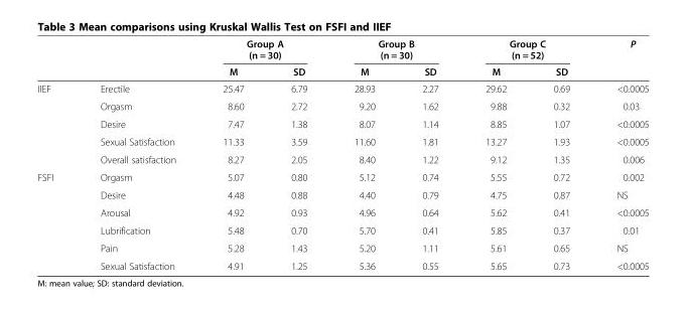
<table><thead><tr><td rowspan="2"></td><td rowspan="2"></td><td rowspan="2">Group A (n = 30) M</td><td rowspan="2">SD</td><td rowspan="2">Group B (n = 30) M</td><td rowspan="2">SD</td><td rowspan="2">Group C (n = 52) M</td><td rowspan="2">SD</td><td rowspan="2">P</td></tr><tr></tr></thead><tbody><tr><td rowspan="5">IIEF</td><td>Erectile</td><td>25.47</td><td>6.79</td><td>28.93</td><td>2.27</td><td>29.62</td><td>0.69</td><td>&lt;0.0005</td></tr><tr><td>Orgasm</td><td>8.60</td><td>2.72</td><td>9.20</td><td>1.62</td><td>9.88</td><td>0.32</td><td>0.03</td></tr><tr><td>Desire</td><td>7.47</td><td>1.38</td><td>8.07</td><td>1.14</td><td>8.85</td><td>1.07</td><td>&lt;0.0005</td></tr><tr><td>Sexual Satisfaction</td><td>11.33</td><td>3.59</td><td>11.60</td><td>1.81</td><td>13.27</td><td>1.93</td><td>&lt;0.0005</td></tr><tr><td>Overall satisfaction</td><td>8.27</td><td>2.05</td><td>8.40</td><td>1.22</td><td>9.12</td><td>1.35</td><td>0.006</td></tr><tr><td rowspan="6">FSFI</td><td>Orgasm</td><td>5.07</td><td>0.80</td><td>5.12</td><td>0.74</td><td>5.55</td><td>0.72</td><td>0.002</td></tr><tr><td>Desire</td><td>4.48</td><td>0.88</td><td>4.40</td><td>0.79</td><td>4.75</td><td>0.87</td><td>NS</td></tr><tr><td>Arousal</td><td>4.92</td><td>0.93</td><td>4.96</td><td>0.64</td><td>5.62</td><td>0.41</td><td>&lt;0.0005</td></tr><tr><td>Lubrification</td><td>5.48</td><td>0.70</td><td>5.70</td><td>0.41</td><td>5.85</td><td>0.37</td><td>0.01</td></tr><tr><td>Pain</td><td>5.28</td><td>1.43</td><td>5.20</td><td>1.11</td><td>5.61</td><td>0.65</td><td>NS</td></tr><tr><td>Sexual Satisfaction</td><td>4.91</td><td>1.25</td><td>5.36</td><td>0.55</td><td>5.65</td><td>0.73</td><td>&lt;0.0005</td></tr></tbody></table>